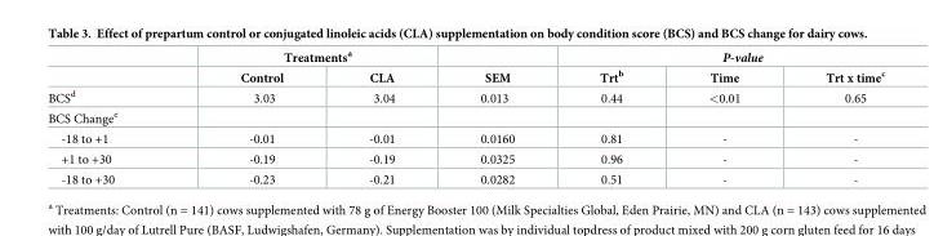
<table><thead><tr><td rowspan="2"></td><td colspan="2">Treatments<sup>a</sup></td><td rowspan="2">SEM</td><td colspan="3">P-value</td></tr><tr><td>Control</td><td>CLA</td><td>Trt<sup>b</sup></td><td>Time</td><td>Trt x time<sup>c</sup></td></tr></thead><tbody><tr><td>BCS<sup>d</sup></td><td>3.03</td><td>3.04</td><td>0.013</td><td>0.44</td><td>&lt;0.01</td><td>0.65</td></tr><tr><td colspan="7">BCS Change<sup>e</sup></td></tr><tr><td>-18 to +1</td><td>-0.01</td><td>-0.01</td><td>0.0160</td><td>0.81</td><td>-</td><td>-</td></tr><tr><td>+1 to +30</td><td>-0.19</td><td>-0.19</td><td>0.0325</td><td>0.96</td><td>-</td><td>-</td></tr><tr><td>-18 to +30</td><td>-0.23</td><td>-0.21</td><td>0.0282</td><td>0.51</td><td>-</td><td>-</td></tr></tbody></table>